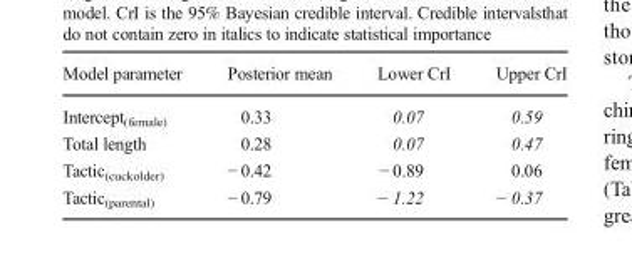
<table><thead><tr><td>Model parameter</td><td>Posterior mean</td><td>Lower CrI</td><td>Upper CrI</td></tr></thead><tbody><tr><td>Intercept<sub>(female)</sub></td><td>0.33</td><td>0.07</td><td>0.59</td></tr><tr><td>Total length</td><td>0.28</td><td>0.07</td><td>0.47</td></tr><tr><td>Tactic<sub>(cuckolder)</sub></td><td>− 0.42</td><td>− 0.89</td><td>0.06</td></tr><tr><td>Tactic<sub>(parental)</sub></td><td>− 0.79</td><td>− 1.22</td><td>− 0.37</td></tr></tbody></table>